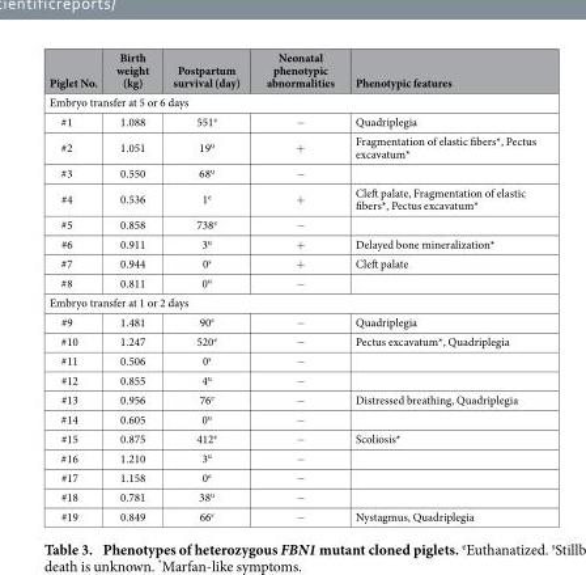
<table><thead><tr><td>Piglet No.</td><td>Birth weight (kg)</td><td>Postpartum survival (day)</td><td>Neonatal phenotypic abnormalities</td><td>Phenotypic features</td></tr></thead><tbody><tr><td colspan="5">Embryo transfer at 5 or 6 days</td></tr><tr><td>#1</td><td>1.088</td><td>551<sup>e</sup></td><td>−</td><td>Quadriplegia</td></tr><tr><td>#2</td><td>1.051</td><td>19<sup>u</sup></td><td>+</td><td>Fragmentation of elastic fibers*, Pectus excavatum*</td></tr><tr><td>#3</td><td>0.550</td><td>68<sup>u</sup></td><td>−</td><td></td></tr><tr><td>#4</td><td>0.536</td><td>1<sup>e</sup></td><td>+</td><td>Cleft palate, Fragmentation of elastic fibers*, Pectus excavatum*</td></tr><tr><td>#5</td><td>0.858</td><td>738<sup>e</sup></td><td>−</td><td></td></tr><tr><td>#6</td><td>0.911</td><td>3<sup>u</sup></td><td>+</td><td>Delayed bone mineralization*</td></tr><tr><td>#7</td><td>0.944</td><td>0<sup>s</sup></td><td>+</td><td>Cleft palate</td></tr><tr><td>#8</td><td>0.811</td><td>0<sup>u</sup></td><td>−</td><td></td></tr><tr><td colspan="5">Embryo transfer at 1 or 2 days</td></tr><tr><td>#9</td><td>1.481</td><td>90<sup>e</sup></td><td>−</td><td>Quadriplegia</td></tr><tr><td>#10</td><td>1.247</td><td>520<sup>e</sup></td><td>−</td><td>Pectus excavatum*, Quadriplegia</td></tr><tr><td>#11</td><td>0.506</td><td>0<sup>s</sup></td><td>−</td><td></td></tr><tr><td>#12</td><td>0.855</td><td>4<sup>u</sup></td><td>−</td><td></td></tr><tr><td>#13</td><td>0.956</td><td>76<sup>e</sup></td><td>−</td><td>Distressed breathing, Quadriplegia</td></tr><tr><td>#14</td><td>0.605</td><td>0<sup>u</sup></td><td>−</td><td></td></tr><tr><td>#15</td><td>0.875</td><td>412<sup>e</sup></td><td>−</td><td>Scoliosis*</td></tr><tr><td>#16</td><td>1.210</td><td>3<sup>u</sup></td><td>−</td><td></td></tr><tr><td>#17</td><td>1.158</td><td>0<sup>e</sup></td><td>−</td><td></td></tr><tr><td>#18</td><td>0.781</td><td>38<sup>u</sup></td><td>−</td><td></td></tr><tr><td>#19</td><td>0.849</td><td>66<sup>e</sup></td><td>−</td><td>Nystagmus, Quadriplegia</td></tr></tbody></table>